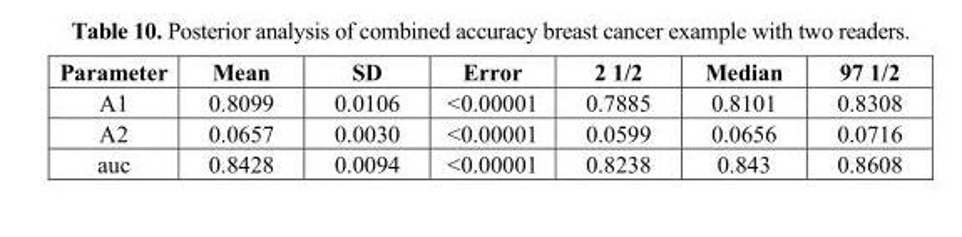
<table><thead><tr><td>Parameter</td><td>Mean</td><td>SD</td><td>Error</td><td>2 1/2</td><td>Median</td><td>97 1/2</td></tr></thead><tbody><tr><td>A1</td><td>0.8099</td><td>0.0106</td><td>&lt;0.00001</td><td>0.7885</td><td>0.8101</td><td>0.8308</td></tr><tr><td>A2</td><td>0.0657</td><td>0.0030</td><td>&lt;0.00001</td><td>0.0599</td><td>0.0656</td><td>0.0716</td></tr><tr><td>auc</td><td>0.8428</td><td>0.0094</td><td>&lt;0.00001</td><td>0.8238</td><td>0.843</td><td>0.8608</td></tr></tbody></table>